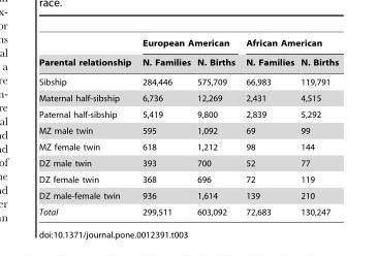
<table><thead><tr><td rowspan="2">Parental relationship</td><td colspan="2">European American</td><td colspan="2">African American</td></tr><tr><td>N. Families</td><td>N. Births</td><td>N. Families</td><td>N. Births</td></tr></thead><tbody><tr><td>Sibship</td><td>284,446</td><td>575,709</td><td>66,983</td><td>119,791</td></tr><tr><td>Maternal half-sibship</td><td>6,736</td><td>12,269</td><td>2,431</td><td>4,515</td></tr><tr><td>Paternal half-sibship</td><td>5,419</td><td>9,800</td><td>2,839</td><td>5,292</td></tr><tr><td>MZ male twin</td><td>595</td><td>1,092</td><td>69</td><td>99</td></tr><tr><td>MZ female twin</td><td>618</td><td>1,212</td><td>98</td><td>144</td></tr><tr><td>DZ male twin</td><td>393</td><td>700</td><td>52</td><td>77</td></tr><tr><td>DZ female twin</td><td>368</td><td>696</td><td>72</td><td>119</td></tr><tr><td>DZ male-female twin</td><td>936</td><td>1,614</td><td>139</td><td>210</td></tr><tr><td>Total</td><td>299,511</td><td>603,092</td><td>72,683</td><td>130,247</td></tr></tbody></table>